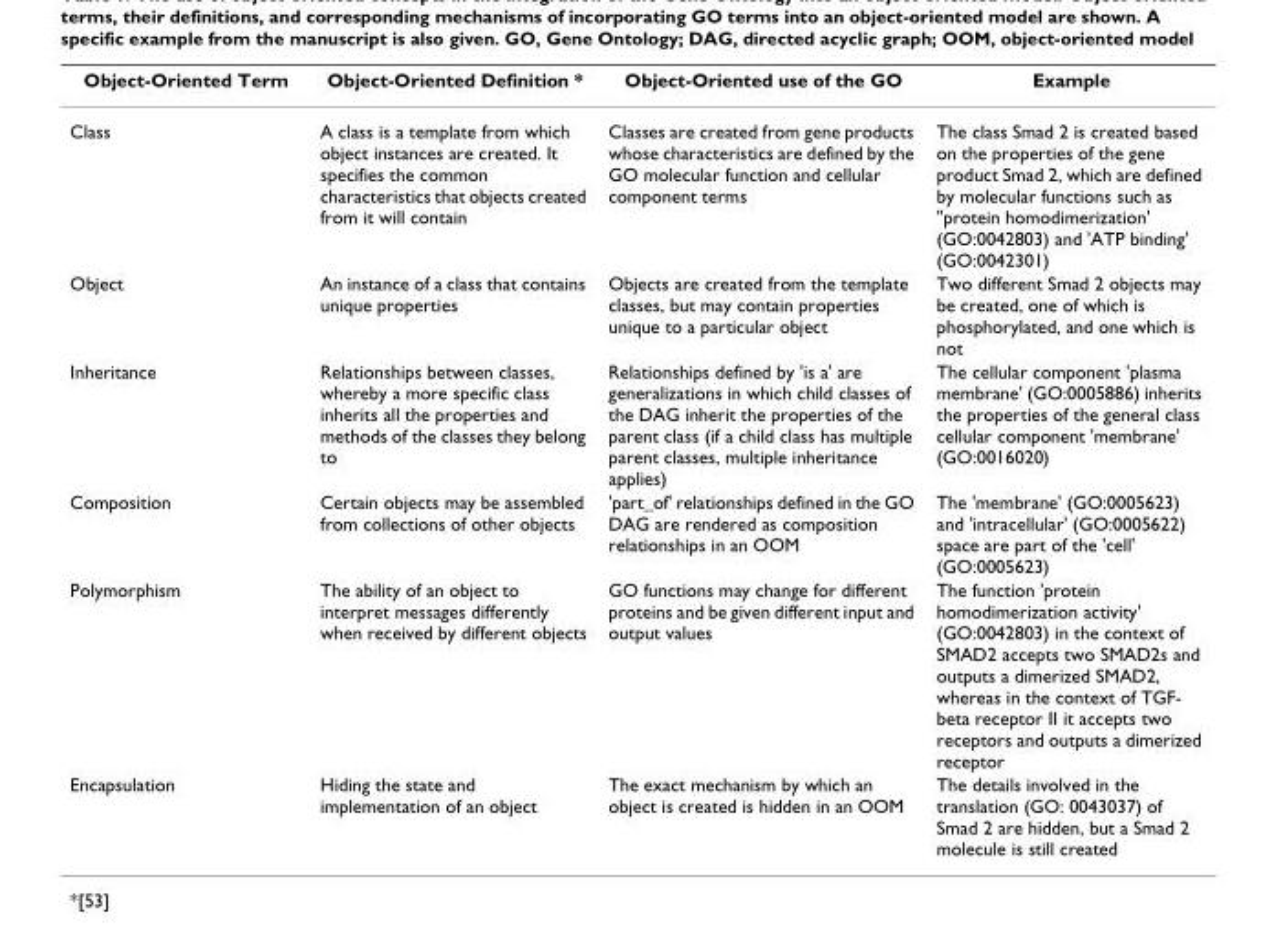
<table><thead><tr><td>Object-Oriented Term</td><td>Object-Oriented Definition *</td><td>Object-Oriented use of the GO</td><td>Example</td></tr></thead><tbody><tr><td>Class</td><td>A class is a template from which object instances are created. It specifies the common characteristics that objects created from it will contain</td><td>Classes are created from gene products whose characteristics are defined by the GO molecular function and cellular component terms</td><td>The class Smad 2 is created based on the properties of the gene product Smad 2, which are defined by molecular functions such as &quot;protein homodimerization&#x27; (GO:0042803) and &#x27;ATP binding&#x27; (GO:0042301)</td></tr><tr><td>Object</td><td>An instance of a class that contains unique properties</td><td>Objects are created from the template classes, but may contain properties unique to a particular object</td><td>Two different Smad 2 objects may be created, one of which is phosphorylated, and one which is not</td></tr><tr><td>Inheritance</td><td>Relationships between classes, whereby a more specific class inherits all the properties and methods of the classes they belong to</td><td>Relationships defined by &#x27;is a&#x27; are generalizations in which child classes of the DAG inherit the properties of the parent class (if a child class has multiple parent classes, multiple inheritance applies)</td><td>The cellular component &#x27;plasma membrane&#x27; (GO:0005886) inherits the properties of the general class cellular component &#x27;membrane&#x27; (GO:0016020)</td></tr><tr><td>Composition</td><td>Certain objects may be assembled from collections of other objects</td><td>&#x27;part_of&#x27; relationships defined in the GO DAG are rendered as composition relationships in an OOM</td><td>The &#x27;membrane&#x27; (GO:0005623) and &#x27;intracellular&#x27; (GO:0005622) space are part of the &#x27;cell&#x27; (GO:0005623)</td></tr><tr><td>Polymorphism</td><td>The ability of an object to interpret messages differently when received by different objects</td><td>GO functions may change for different proteins and be given different input and output values</td><td>The function &#x27;protein homodimerization activity&#x27; (GO:0042803) in the context of SMAD2 accepts two SMAD2s and outputs a dimerized SMAD2, whereas in the context of TGF- beta receptor II it accepts two receptors and outputs a dimerized receptor</td></tr><tr><td>Encapsulation</td><td>Hiding the state and implementation of an object</td><td>The exact mechanism by which an object is created is hidden in an OOM</td><td>The details involved in the translation (GO: 0043037) of Smad 2 are hidden, but a Smad 2 molecule is still created</td></tr></tbody></table>